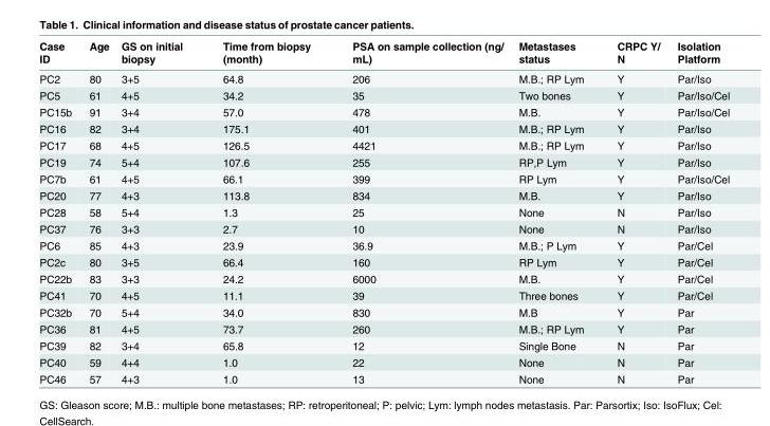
<table><thead><tr><td>Case ID</td><td>Age</td><td>GS on initial biopsy</td><td>Time from biopsy (month)</td><td>PSA on sample collection (ng/ mL)</td><td>Metastases status</td><td>CRPC Y/ N</td><td>Isolation Platform</td></tr></thead><tbody><tr><td>PC2</td><td>80</td><td>3+5</td><td>64.8</td><td>206</td><td>M.B.; RP Lym</td><td>Y</td><td>Par/Iso</td></tr><tr><td>PC5</td><td>61</td><td>4+5</td><td>34.2</td><td>35</td><td>Two bones</td><td>Y</td><td>Par/Iso/Cel</td></tr><tr><td>PC15b</td><td>91</td><td>3+4</td><td>57.0</td><td>478</td><td>M.B.</td><td>Y</td><td>Par/Iso/Cel</td></tr><tr><td>PC16</td><td>82</td><td>3+4</td><td>175.1</td><td>401</td><td>M.B.; RP Lym</td><td>Y</td><td>Par/Iso</td></tr><tr><td>PC17</td><td>68</td><td>4+5</td><td>126.5</td><td>4421</td><td>M.B.; RP Lym</td><td>Y</td><td>Par/Iso</td></tr><tr><td>PC19</td><td>74</td><td>5+4</td><td>107.6</td><td>255</td><td>RP,P Lym</td><td>Y</td><td>Par/Iso</td></tr><tr><td>PC7b</td><td>61</td><td>4+5</td><td>66.1</td><td>399</td><td>RP Lym</td><td>Y</td><td>Par/Iso/Cel</td></tr><tr><td>PC20</td><td>77</td><td>4+3</td><td>113.8</td><td>834</td><td>M.B.</td><td>Y</td><td>Par/Iso</td></tr><tr><td>PC28</td><td>58</td><td>5+4</td><td>1.3</td><td>25</td><td>None</td><td>N</td><td>Par/Iso</td></tr><tr><td>PC37</td><td>76</td><td>3+3</td><td>2.7</td><td>10</td><td>None</td><td>N</td><td>Par/Iso</td></tr><tr><td>PC6</td><td>85</td><td>4+3</td><td>23.9</td><td>36.9</td><td>M.B.; P Lym</td><td>Y</td><td>Par/Cel</td></tr><tr><td>PC2c</td><td>80</td><td>3+5</td><td>66.4</td><td>160</td><td>RP Lym</td><td>Y</td><td>Par/Cel</td></tr><tr><td>PC22b</td><td>83</td><td>3+3</td><td>24.2</td><td>6000</td><td>M.B.</td><td>Y</td><td>Par/Cel</td></tr><tr><td>PC41</td><td>70</td><td>4+5</td><td>11.1</td><td>39</td><td>Three bones</td><td>Y</td><td>Par/Cel</td></tr><tr><td>PC32b</td><td>70</td><td>5+4</td><td>34.0</td><td>830</td><td>M.B</td><td>Y</td><td>Par</td></tr><tr><td>PC36</td><td>81</td><td>4+5</td><td>73.7</td><td>260</td><td>M.B.; RP Lym</td><td>Y</td><td>Par</td></tr><tr><td>PC39</td><td>82</td><td>3+4</td><td>65.8</td><td>12</td><td>Single Bone</td><td>N</td><td>Par</td></tr><tr><td>PC40</td><td>59</td><td>4+4</td><td>1.0</td><td>22</td><td>None</td><td>N</td><td>Par</td></tr><tr><td>PC46</td><td>57</td><td>4+3</td><td>1.0</td><td>13</td><td>None</td><td>N</td><td>Par</td></tr></tbody></table>